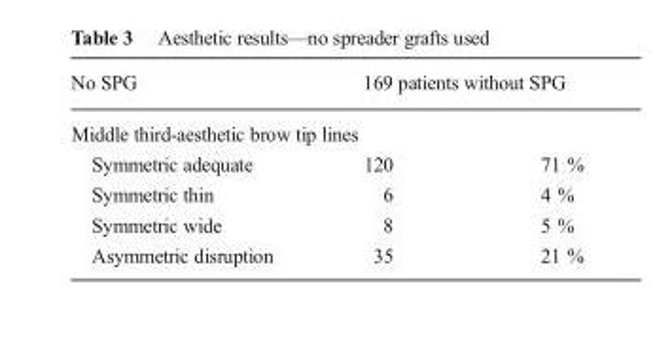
<table><thead><tr><td>No SPG</td><td colspan="2">169 patients without SPG</td></tr><tr><td colspan="3">Middle third-aesthetic brow tip lines</td></tr><tr><td>Symmetric adequate</td><td>120</td><td>71 %</td></tr></thead><tbody><tr><td>Symmetric thin</td><td>6</td><td>4 %</td></tr><tr><td>Symmetric wide</td><td>8</td><td>5 %</td></tr><tr><td>Asymmetric disruption</td><td>35</td><td>21 %</td></tr></tbody></table>